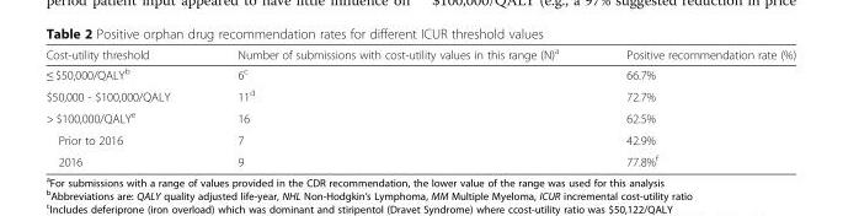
<table><thead><tr><td>Cost-utility threshold</td><td>Number of submissions with cost-utility values in this range (N)<sup>a</sup></td><td>Positive recommendation rate (%)</td></tr></thead><tbody><tr><td>≤ $50,000/QALY<sup>b</sup></td><td>6<sup>c</sup></td><td>66.7%</td></tr><tr><td>$50,000 - $100,000/QALY</td><td>11<sup>d</sup></td><td>72.7%</td></tr><tr><td>&gt; $100,000/QALY<sup>e</sup></td><td>16</td><td>62.5%</td></tr><tr><td>Prior to 2016</td><td>7</td><td>42.9%</td></tr><tr><td>2016</td><td>9</td><td>77.8%<sup>f</sup></td></tr></tbody></table>